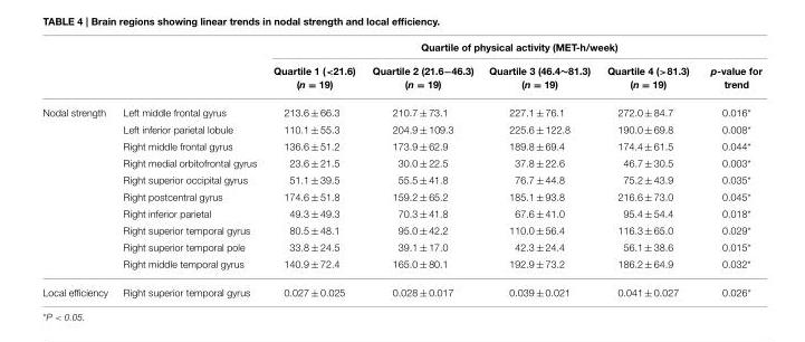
<table><thead><tr><td rowspan="2"></td><td rowspan="2"></td><td colspan="5">Quartile of physical activity (MET-h/week)</td></tr><tr><td>Quartile 1 (&lt;21.6) (n = 19)</td><td>Quartile 2 (21.6−46.3) (n = 19)</td><td>Quartile 3 (46.4∼81.3) (n = 19)</td><td>Quartile 4 (&gt;81.3) (n = 19)</td><td>p-value for trend</td></tr></thead><tbody><tr><td rowspan="10">Nodal strength</td><td>Left middle frontal gyrus</td><td>213.6 ± 66.3</td><td>210.7 ± 73.1</td><td>227.1 ± 76.1</td><td>272.0 ± 84.7</td><td>0.016*</td></tr><tr><td>Left inferior parietal lobule</td><td>110.1 ± 55.3</td><td>204.9 ± 109.3</td><td>225.6 ± 122.8</td><td>190.0 ± 69.8</td><td>0.008*</td></tr><tr><td>Right middle frontal gyrus</td><td>136.6 ± 51.2</td><td>173.9 ± 62.9</td><td>189.8 ± 69.4</td><td>174.4 ± 61.5</td><td>0.044*</td></tr><tr><td>Right medial orbitofrontal gyrus</td><td>23.6 ± 21.5</td><td>30.0 ± 22.5</td><td>37.8 ± 22.6</td><td>46.7 ± 30.5</td><td>0.003*</td></tr><tr><td>Right superior occipital gyrus</td><td>51.1 ± 39.5</td><td>55.5 ± 41.8</td><td>76.7 ± 44.8</td><td>75.2 ± 43.9</td><td>0.035*</td></tr><tr><td>Right postcentral gyrus</td><td>174.6 ± 51.8</td><td>159.2 ± 65.2</td><td>185.1 ± 93.8</td><td>216.6 ± 73.0</td><td>0.045*</td></tr><tr><td>Right inferior parietal</td><td>49.3 ± 49.3</td><td>70.3 ± 41.8</td><td>67.6 ± 41.0</td><td>95.4 ± 54.4</td><td>0.018*</td></tr><tr><td>Right superior temporal gyrus</td><td>80.5 ± 48.1</td><td>95.0 ± 42.2</td><td>110.0 ± 56.4</td><td>116.3 ± 65.0</td><td>0.029*</td></tr><tr><td>Right superior temporal pole</td><td>33.8 ± 24.5</td><td>39.1 ± 17.0</td><td>42.3 ± 24.4</td><td>56.1 ± 38.6</td><td>0.015*</td></tr><tr><td>Right middle temporal gyrus</td><td>140.9 ± 72.4</td><td>165.0 ± 80.1</td><td>192.9 ± 73.2</td><td>186.2 ± 64.9</td><td>0.032*</td></tr><tr><td>Local efficiency</td><td>Right superior temporal gyrus</td><td>0.027 ± 0.025</td><td>0.028 ± 0.017</td><td>0.039 ± 0.021</td><td>0.041 ± 0.027</td><td>0.026*</td></tr></tbody></table>